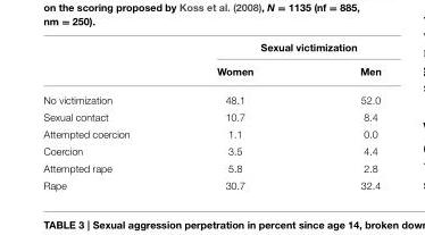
<table><thead><tr><td rowspan="2"></td><td colspan="2">Sexual victimization</td></tr><tr><td>Women</td><td>Men</td></tr></thead><tbody><tr><td>No victimization</td><td>48.1</td><td>52.0</td></tr><tr><td>Sexual contact</td><td>10.7</td><td>8.4</td></tr><tr><td>Attempted coercion</td><td>1.1</td><td>0.0</td></tr><tr><td>Coercion</td><td>3.5</td><td>4.4</td></tr><tr><td>Attempted rape</td><td>5.8</td><td>2.8</td></tr><tr><td>Rape</td><td>30.7</td><td>32.4</td></tr></tbody></table>